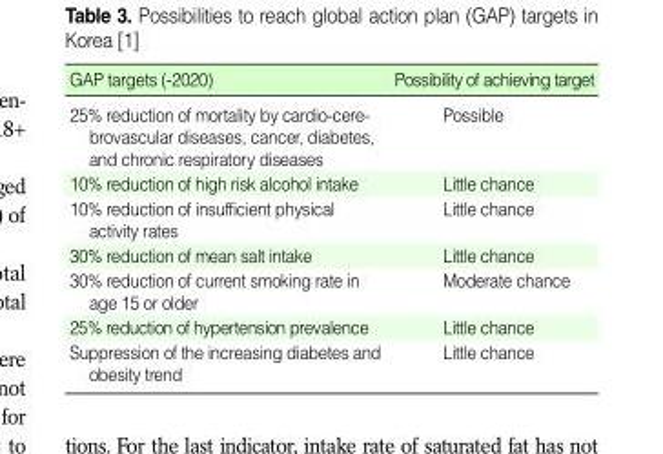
<table><thead><tr><td>GAP targets (-2020)</td><td>Possibility of achieving target</td></tr></thead><tbody><tr><td>25% reduction of mortality by cardio-cere- brovascular diseases, cancer, diabetes, and chronic respiratory diseases</td><td>Possible</td></tr><tr><td>10% reduction of high risk alcohol intake</td><td>Little chance</td></tr><tr><td>10% reduction of insufficient physical activity rates</td><td>Little chance</td></tr><tr><td>30% reduction of mean salt intake</td><td>Little chance</td></tr><tr><td>30% reduction of current smoking rate in age 15 or older</td><td>Moderate chance</td></tr><tr><td>25% reduction of hypertension prevalence</td><td>Little chance</td></tr><tr><td>Suppression of the increasing diabetes and obesity trend</td><td>Little chance</td></tr></tbody></table>